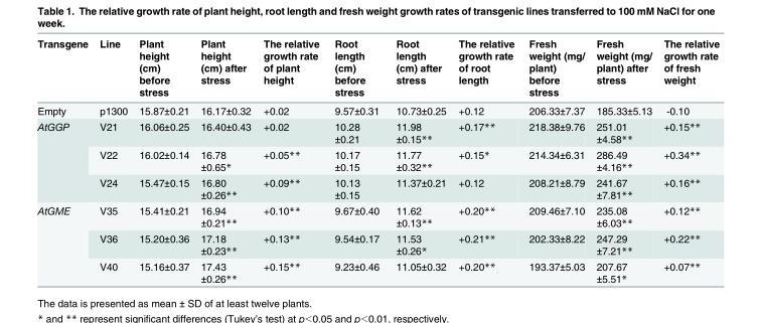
<table><thead><tr><td>Transgene</td><td>Line</td><td>Plant height (cm) before stress</td><td>Plant height (cm) after stress</td><td>The relative growth rate of plant height</td><td>Root length (cm) before stress</td><td>Root length (cm) after stress</td><td>The relative growth rate of root length</td><td>Fresh weight (mg/ plant) before stress</td><td>Fresh weight (mg/ plant) after stress</td><td>The relative growth rate of fresh weight</td></tr></thead><tbody><tr><td>Empty</td><td>p1300</td><td>15.87±0.21</td><td>16.17±0.32</td><td>+0.02</td><td>9.57±0.31</td><td>10.73±0.25</td><td>+0.12</td><td>206.33±7.37</td><td>185.33±5.13</td><td>-0.10</td></tr><tr><td rowspan="3">AtGGP</td><td>V21</td><td>16.06±0.25</td><td>16.40±0.43</td><td>+0.02</td><td>10.28 ±0.21</td><td>11.98 ±0.15**</td><td>+0.17**</td><td>218.38±9.76</td><td>251.01 ±4.58**</td><td>+0.15**</td></tr><tr><td>V22</td><td>16.02±0.14</td><td>16.78 ±0.65*</td><td>+0.05**</td><td>10.17 ±0.15</td><td>11.77 ±0.32**</td><td>+0.15*</td><td>214.34±6.31</td><td>286.49 ±4.16**</td><td>+0.34**</td></tr><tr><td>V24</td><td>15.47±0.15</td><td>16.80 ±0.26**</td><td>+0.09**</td><td>10.13 ±0.15</td><td>11.37±0.21</td><td>+0.12</td><td>208.21±8.79</td><td>241.67 ±7.81**</td><td>+0.16**</td></tr><tr><td rowspan="3">AtGME</td><td>V35</td><td>15.41±0.21</td><td>16.94 ±0.21**</td><td>+0.10**</td><td>9.67±0.40</td><td>11.62 ±0.13**</td><td>+0.20**</td><td>209.46±7.10</td><td>235.08 ±6.03**</td><td>+0.12**</td></tr><tr><td>V36</td><td>15.20±0.36</td><td>17.18 ±0.23**</td><td>+0.13**</td><td>9.54±0.17</td><td>11.53 ±0.26*</td><td>+0.21**</td><td>202.33±8.22</td><td>247.29 ±7.21**</td><td>+0.22**</td></tr><tr><td>V40</td><td>15.16±0.37</td><td>17.43 ±0.26**</td><td>+0.15**</td><td>9.23±0.46</td><td>11.05±0.32</td><td>+0.20**</td><td>193.37±5.03</td><td>207.67 ±5.51*</td><td>+0.07**</td></tr></tbody></table>